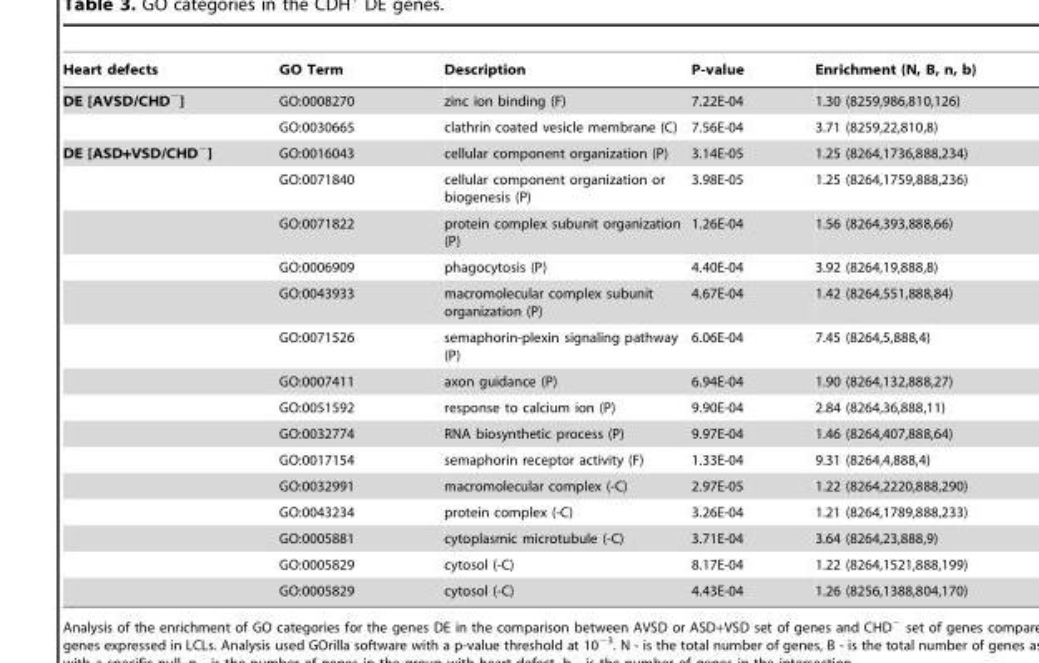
<table><thead><tr><td>Heart defects</td><td>GO Term</td><td>Description</td><td>P-value</td><td>Enrichment (N, B, n, b)</td></tr></thead><tbody><tr><td rowspan="2">DE [AVSD/CHD<sup>−</sup>]</td><td>GO:0008270</td><td>zinc ion binding (F)</td><td>7.22E-04</td><td>1.30 (8259,986,810,126)</td></tr><tr><td>GO:0030665</td><td>clathrin coated vesicle membrane (C)</td><td>7.56E-04</td><td>3.71 (8259,22,810,8)</td></tr><tr><td rowspan="15">DE [ASD+VSD/CHD<sup>−</sup>]</td><td>GO:0016043</td><td>cellular component organization (P)</td><td>3.14E-05</td><td>1.25 (8264,1736,888,234)</td></tr><tr><td>GO:0071840</td><td>cellular component organization or biogenesis (P)</td><td>3.98E-05</td><td>1.25 (8264,1759,888,236)</td></tr><tr><td>GO:0071822</td><td>protein complex subunit organization (P)</td><td>1.26E-04</td><td>1.56 (8264,393,888,66)</td></tr><tr><td>GO:0006909</td><td>phagocytosis (P)</td><td>4.40E-04</td><td>3.92 (8264,19,888,8)</td></tr><tr><td>GO:0043933</td><td>macromolecular complex subunit organization (P)</td><td>4.67E-04</td><td>1.42 (8264,551,888,84)</td></tr><tr><td>GO:0071526</td><td>semaphorin-plexin signaling pathway (P)</td><td>6.06E-04</td><td>7.45 (8264,5,888,4)</td></tr><tr><td>GO:0007411</td><td>axon guidance (P)</td><td>6.94E-04</td><td>1.90 (8264,132,888,27)</td></tr><tr><td>GO:0051592</td><td>response to calcium ion (P)</td><td>9.90E-04</td><td>2.84 (8264,36,888,11)</td></tr><tr><td>GO:0032774</td><td>RNA biosynthetic process (P)</td><td>9.97E-04</td><td>1.46 (8264,407,888,64)</td></tr><tr><td>GO:0017154</td><td>semaphorin receptor activity (F)</td><td>1.33E-04</td><td>9.31 (8264,4,888,4)</td></tr><tr><td>GO:0032991</td><td>macromolecular complex (-C)</td><td>2.97E-05</td><td>1.22 (8264,2220,888,290)</td></tr><tr><td>GO:0043234</td><td>protein complex (-C)</td><td>3.26E-04</td><td>1.21 (8264,1789,888,233)</td></tr><tr><td>GO:0005881</td><td>cytoplasmic microtubule (-C)</td><td>3.71E-04</td><td>3.64 (8264,23,888,9)</td></tr><tr><td>GO:0005829</td><td>cytosol (-C)</td><td>8.17E-04</td><td>1.22 (8264,1521,888,199)</td></tr><tr><td>GO:0005829</td><td>cytosol (-C)</td><td>4.43E-04</td><td>1.26 (8256,1388,804,170)</td></tr></tbody></table>